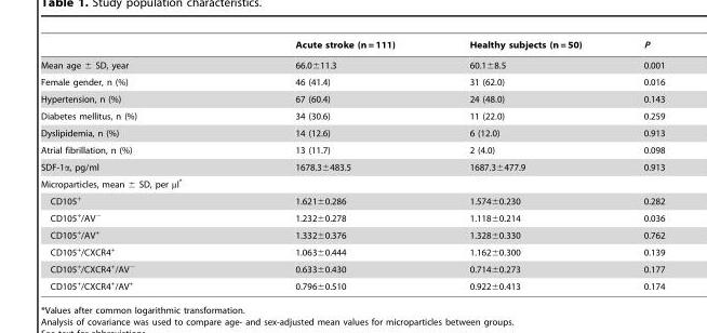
<table><thead><tr><td></td><td>Acute stroke (n = 111)</td><td>Healthy subjects (n = 50)</td><td>P</td></tr></thead><tbody><tr><td>Mean age ± SD, year</td><td>66.0±11.3</td><td>60.1±8.5</td><td>0.001</td></tr><tr><td>Female gender, n (%)</td><td>46 (41.4)</td><td>31 (62.0)</td><td>0.016</td></tr><tr><td>Hypertension, n (%)</td><td>67 (60.4)</td><td>24 (48.0)</td><td>0.143</td></tr><tr><td>Diabetes mellitus, n (%)</td><td>34 (30.6)</td><td>11 (22.0)</td><td>0.259</td></tr><tr><td>Dyslipidemia, n (%)</td><td>14 (12.6)</td><td>6 (12.0)</td><td>0.913</td></tr><tr><td>Atrial fibrillation, n (%)</td><td>13 (11.7)</td><td>2 (4.0)</td><td>0.098</td></tr><tr><td>SDF-1α, pg/ml</td><td>1678.3±483.5</td><td>1687.3±477.9</td><td>0.913</td></tr><tr><td colspan="4">Microparticles, mean ± SD, per µl*</td></tr><tr><td>CD105<sup>+</sup></td><td>1.621±0.286</td><td>1.574±0.230</td><td>0.282</td></tr><tr><td>CD105<sup>+</sup>/AV<sup>−</sup></td><td>1.232±0.278</td><td>1.118±0.214</td><td>0.036</td></tr><tr><td>CD105<sup>+</sup>/AV<sup>+</sup></td><td>1.332±0.376</td><td>1.328±0.330</td><td>0.762</td></tr><tr><td>CD105<sup>+</sup>/CXCR4<sup>+</sup></td><td>1.063±0.444</td><td>1.162±0.300</td><td>0.139</td></tr><tr><td>CD105<sup>+</sup>/CXCR4<sup>+</sup>/AV<sup>−</sup></td><td>0.633±0.430</td><td>0.714±0.273</td><td>0.177</td></tr><tr><td>CD105<sup>+</sup>/CXCR4<sup>+</sup>/AV<sup>+</sup></td><td>0.796±0.510</td><td>0.922±0.413</td><td>0.174</td></tr></tbody></table>